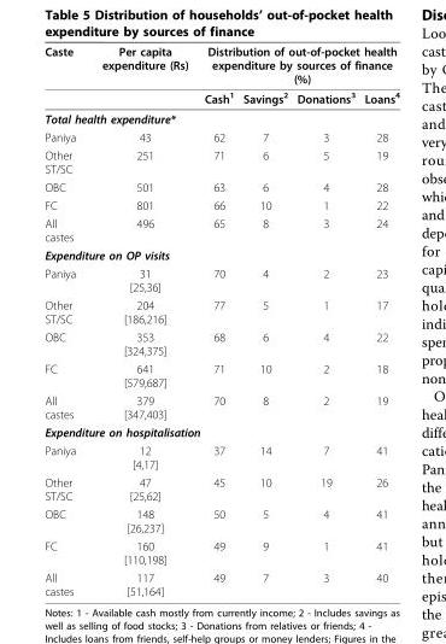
<table><thead><tr><td rowspan="2">Caste</td><td rowspan="2">Per capita expenditure (Rs)</td><td colspan="4">Distribution of out-of-pocket health expenditure by sources of finance (%)</td></tr><tr><td>Cash<sup>1</sup></td><td>Savings<sup>2</sup></td><td>Donations<sup>3</sup></td><td>Loans<sup>4</sup></td></tr></thead><tbody><tr><td colspan="6">Total health expenditure*</td></tr><tr><td>Paniya</td><td>43</td><td>62</td><td>7</td><td>3</td><td>28</td></tr><tr><td>Other ST/SC</td><td>251</td><td>71</td><td>6</td><td>5</td><td>19</td></tr><tr><td>OBC</td><td>501</td><td>63</td><td>6</td><td>4</td><td>28</td></tr><tr><td>FC</td><td>801</td><td>66</td><td>10</td><td>1</td><td>22</td></tr><tr><td>All castes</td><td>496</td><td>65</td><td>8</td><td>3</td><td>24</td></tr><tr><td colspan="6">Expenditure on OP visits</td></tr><tr><td>Paniya</td><td>31 [25,36]</td><td>70</td><td>4</td><td>2</td><td>23</td></tr><tr><td>Other ST/SC</td><td>204 [186,216]</td><td>77</td><td>5</td><td>1</td><td>17</td></tr><tr><td>OBC</td><td>353 [324,375]</td><td>68</td><td>6</td><td>4</td><td>22</td></tr><tr><td>FC</td><td>641 [579,687]</td><td>71</td><td>10</td><td>2</td><td>18</td></tr><tr><td>All castes</td><td>379 [347,403]</td><td>70</td><td>8</td><td>2</td><td>19</td></tr><tr><td colspan="6">Expenditure on hospitalisation</td></tr><tr><td>Paniya</td><td>12 [4,17]</td><td>37</td><td>14</td><td>7</td><td>41</td></tr><tr><td>Other ST/SC</td><td>47 [25,62]</td><td>45</td><td>10</td><td>19</td><td>26</td></tr><tr><td>OBC</td><td>148 [26,237]</td><td>50</td><td>5</td><td>4</td><td>41</td></tr><tr><td>FC</td><td>160 [110,198]</td><td>49</td><td>9</td><td>1</td><td>41</td></tr><tr><td>All castes</td><td>117 [51,164]</td><td>49</td><td>7</td><td>3</td><td>40</td></tr></tbody></table>